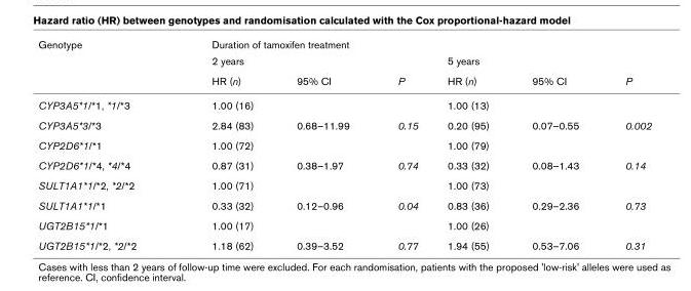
<table><thead><tr><td rowspan="3">Genotype</td><td colspan="6">Duration of tamoxifen treatment</td></tr><tr><td colspan="3">2 years</td><td colspan="3">5 years</td></tr><tr><td>HR (n)</td><td>95% CI</td><td>P</td><td>HR (n)</td><td>95% CI</td><td>P</td></tr></thead><tbody><tr><td>CYP3A5*1/*1, *1/*3</td><td>1.00 (16)</td><td></td><td></td><td>1.00 (13)</td><td></td><td></td></tr><tr><td>CYP3A5*3/*3</td><td>2.84 (83)</td><td>0.68–11.99</td><td>0.15</td><td>0.20 (95)</td><td>0.07–0.55</td><td>0.002</td></tr><tr><td>CYP2D6*1/*1</td><td>1.00 (72)</td><td></td><td></td><td>1.00 (79)</td><td></td><td></td></tr><tr><td>CYP2D6*1/*4, *4/*4</td><td>0.87 (31)</td><td>0.38–1.97</td><td>0.74</td><td>0.33 (32)</td><td>0.08–1.43</td><td>0.14</td></tr><tr><td>SULT1A1*1/*2, *2/*2</td><td>1.00 (71)</td><td></td><td></td><td>1.00 (73)</td><td></td><td></td></tr><tr><td>SULT1A1*1/*1</td><td>0.33 (32)</td><td>0.12–0.96</td><td>0.04</td><td>0.83 (36)</td><td>0.29–2.36</td><td>0.73</td></tr><tr><td>UGT2B15*1/*1</td><td>1.00 (17)</td><td></td><td></td><td>1.00 (26)</td><td></td><td></td></tr><tr><td>UGT2B15*1/*2, *2/*2</td><td>1.18 (62)</td><td>0.39–3.52</td><td>0.77</td><td>1.94 (55)</td><td>0.53–7.06</td><td>0.31</td></tr></tbody></table>